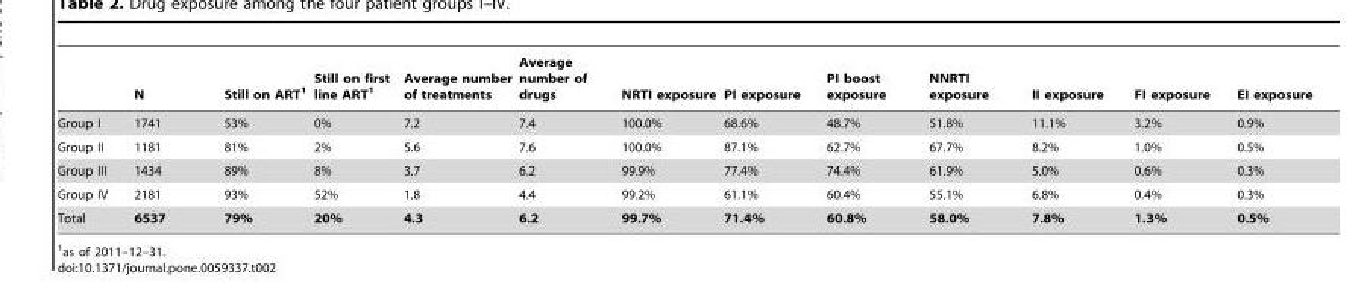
<table><thead><tr><td></td><td>N</td><td>Still on ART<sup>1</sup></td><td>Still on first line ART<sup>1</sup></td><td>Average number of treatments</td><td>Average number of drugs</td><td>NRTI exposure</td><td>PI exposure</td><td>PI boost exposure</td><td>NNRTI exposure</td><td>II exposure</td><td>FI exposure</td><td>EI exposure</td></tr></thead><tbody><tr><td>Group I</td><td>1741</td><td>53%</td><td>0%</td><td>7.2</td><td>7.4</td><td>100.0%</td><td>68.6%</td><td>48.7%</td><td>51.8%</td><td>11.1%</td><td>3.2%</td><td>0.9%</td></tr><tr><td>Group II</td><td>1181</td><td>81%</td><td>2%</td><td>5.6</td><td>7.6</td><td>100.0%</td><td>87.1%</td><td>62.7%</td><td>67.7%</td><td>8.2%</td><td>1.0%</td><td>0.5%</td></tr><tr><td>Group III</td><td>1434</td><td>89%</td><td>8%</td><td>3.7</td><td>6.2</td><td>99.9%</td><td>77.4%</td><td>74.4%</td><td>61.9%</td><td>5.0%</td><td>0.6%</td><td>0.3%</td></tr><tr><td>Group IV</td><td>2181</td><td>93%</td><td>52%</td><td>1.8</td><td>4.4</td><td>99.2%</td><td>61.1%</td><td>60.4%</td><td>55.1%</td><td>6.8%</td><td>0.4%</td><td>0.3%</td></tr><tr><td>Total</td><td>6537</td><td>79%</td><td>20%</td><td>4.3</td><td>6.2</td><td>99.7%</td><td>71.4%</td><td>60.8%</td><td>58.0%</td><td>7.8%</td><td>1.3%</td><td>0.5%</td></tr></tbody></table>